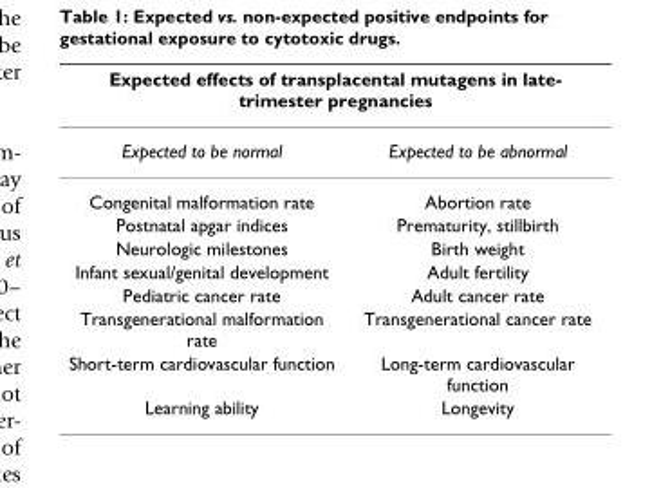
<table><thead><tr><td colspan="2">Expected effects of transplacental mutagens in late- trimester pregnancies</td></tr><tr><td>Expected to be normal</td><td>Expected to be abnormal</td></tr></thead><tbody><tr><td>Congenital malformation rate</td><td>Abortion rate</td></tr><tr><td>Postnatal apgar indices</td><td>Prematurity, stillbirth</td></tr><tr><td>Neurologic milestones</td><td>Birth weight</td></tr><tr><td>Infant sexual/genital development</td><td>Adult fertility</td></tr><tr><td>Pediatric cancer rate</td><td>Adult cancer rate</td></tr><tr><td>Transgenerational malformation rate</td><td>Transgenerational cancer rate</td></tr><tr><td>Short-term cardiovascular function</td><td>Long-term cardiovascular function</td></tr><tr><td>Learning ability</td><td>Longevity</td></tr></tbody></table>